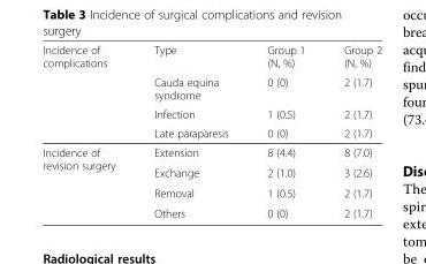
<table><thead><tr><td rowspan="4">Incidence of complications</td><td rowspan="4">Type Cauda equina syndrome Infection Late paraparesis</td><td rowspan="4">Group 1 (N, %) 0 (0) 1 (0.5) 0 (0)</td><td rowspan="4">Group 2 (N, %) 2 (1.7) 2 (1.7) 2 (1.7)</td></tr><tr></tr><tr></tr><tr></tr></thead><tbody><tr><td rowspan="4">Incidence of revision surgery</td><td>Extension</td><td>8 (4.4)</td><td>8 (7.0)</td></tr><tr><td>Exchange</td><td>2 (1.0)</td><td>3 (2.6)</td></tr><tr><td>Removal</td><td>1 (0.5)</td><td>2 (1.7)</td></tr><tr><td>Others</td><td>0 (0)</td><td>2 (1.7)</td></tr></tbody></table>